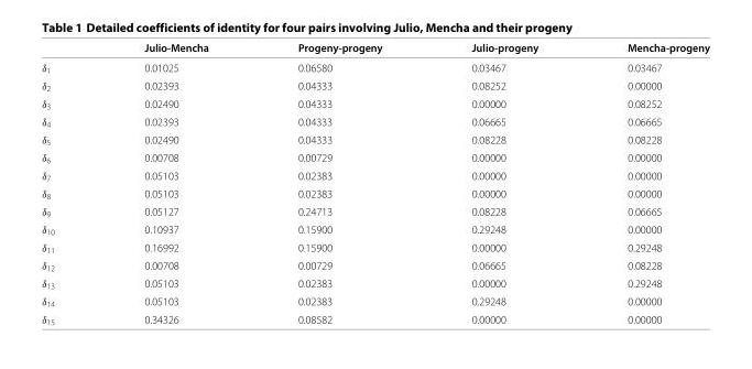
<table><thead><tr><td></td><td>Julio-Mencha</td><td>Progeny-progeny</td><td>Julio-progeny</td><td>Mencha-progeny</td></tr></thead><tbody><tr><td>δ<sub>1</sub></td><td>0.01025</td><td>0.06580</td><td>0.03467</td><td>0.03467</td></tr><tr><td>δ<sub>2</sub></td><td>0.02393</td><td>0.04333</td><td>0.08252</td><td>0.00000</td></tr><tr><td>δ<sub>3</sub></td><td>0.02490</td><td>0.04333</td><td>0.00000</td><td>0.08252</td></tr><tr><td>δ<sub>4</sub></td><td>0.02393</td><td>0.04333</td><td>0.06665</td><td>0.06665</td></tr><tr><td>δ<sub>5</sub></td><td>0.02490</td><td>0.04333</td><td>0.08228</td><td>0.08228</td></tr><tr><td>δ<sub>6</sub></td><td>0.00708</td><td>0.00729</td><td>0.00000</td><td>0.00000</td></tr><tr><td>δ<sub>7</sub></td><td>0.05103</td><td>0.02383</td><td>0.00000</td><td>0.00000</td></tr><tr><td>δ<sub>8</sub></td><td>0.05103</td><td>0.02383</td><td>0.00000</td><td>0.00000</td></tr><tr><td>δ<sub>9</sub></td><td>0.05127</td><td>0.24713</td><td>0.08228</td><td>0.06665</td></tr><tr><td>δ<sub>10</sub></td><td>0.10937</td><td>0.15900</td><td>0.29248</td><td>0.00000</td></tr><tr><td>δ<sub>11</sub></td><td>0.16992</td><td>0.15900</td><td>0.00000</td><td>0.29248</td></tr><tr><td>δ<sub>12</sub></td><td>0.00708</td><td>0.00729</td><td>0.06665</td><td>0.08228</td></tr><tr><td>δ<sub>13</sub></td><td>0.05103</td><td>0.02383</td><td>0.00000</td><td>0.29248</td></tr><tr><td>δ<sub>14</sub></td><td>0.05103</td><td>0.02383</td><td>0.29248</td><td>0.00000</td></tr><tr><td>δ<sub>15</sub></td><td>0.34326</td><td>0.08582</td><td>0.00000</td><td>0.00000</td></tr></tbody></table>